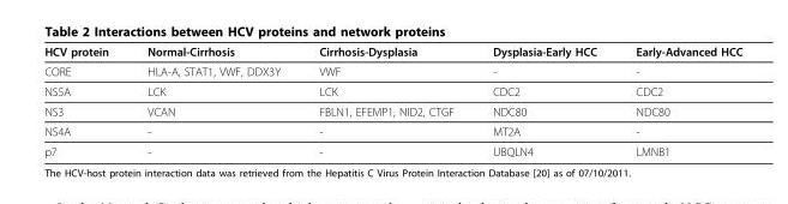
<table><thead><tr><td>HCV protein</td><td>Normal-Cirrhosis</td><td>Cirrhosis-Dysplasia</td><td>Dysplasia-Early HCC</td><td>Early-Advanced HCC</td></tr></thead><tbody><tr><td>CORE</td><td>HLA-A, STAT1, VWF, DDX3Y</td><td>VWF</td><td>-</td><td>-</td></tr><tr><td>NS5A</td><td>LCK</td><td>LCK</td><td>CDC2</td><td>CDC2</td></tr><tr><td>NS3</td><td>VCAN</td><td>FBLN1, EFEMP1, NID2, CTGF</td><td>NDC80</td><td>NDC80</td></tr><tr><td>NS4A</td><td>-</td><td>-</td><td>MT2A</td><td>-</td></tr><tr><td>p7</td><td>-</td><td>-</td><td>UBQLN4</td><td>LMNB1</td></tr></tbody></table>